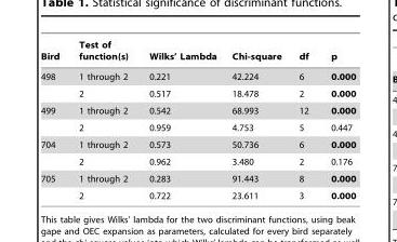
<table><thead><tr><td>Bird</td><td>Test of function(s)</td><td>Wilks’ Lambda</td><td>Chi-square</td><td>df</td><td>p</td></tr></thead><tbody><tr><td rowspan="2">498</td><td>1 through 2</td><td>0.221</td><td>42.224</td><td>6</td><td>0.000</td></tr><tr><td>2</td><td>0.517</td><td>18.478</td><td>2</td><td>0.000</td></tr><tr><td rowspan="2">499</td><td>1 through 2</td><td>0.542</td><td>68.993</td><td>12</td><td>0.000</td></tr><tr><td>2</td><td>0.959</td><td>4.753</td><td>5</td><td>0.447</td></tr><tr><td rowspan="2">704</td><td>1 through 2</td><td>0.573</td><td>50.736</td><td>6</td><td>0.000</td></tr><tr><td>2</td><td>0.962</td><td>3.480</td><td>2</td><td>0.176</td></tr><tr><td rowspan="2">705</td><td>1 through 2</td><td>0.283</td><td>91.443</td><td>8</td><td>0.000</td></tr><tr><td>2</td><td>0.722</td><td>23.611</td><td>3</td><td>0.000</td></tr></tbody></table>